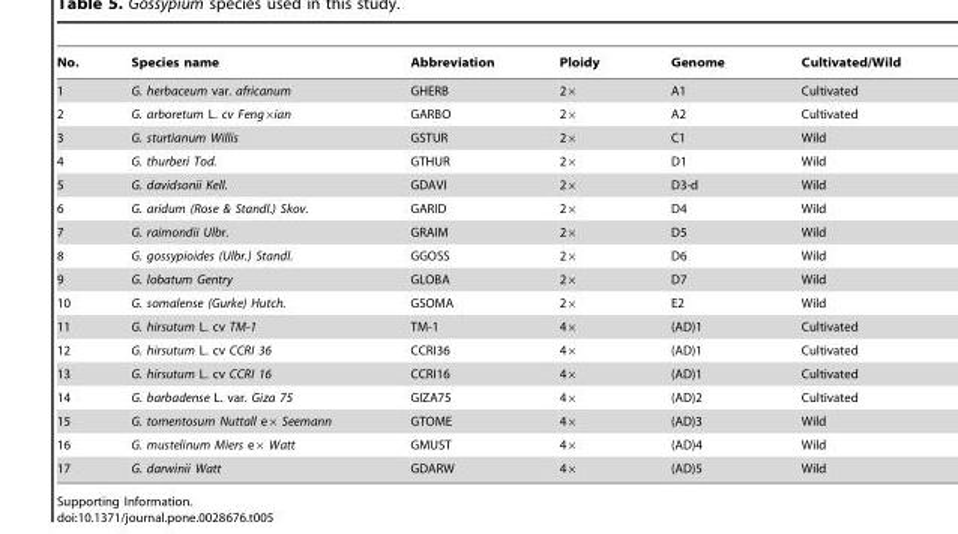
<table><thead><tr><td>No.</td><td>Species name</td><td>Abbreviation</td><td>Ploidy</td><td>Genome</td><td>Cultivated/Wild</td></tr></thead><tbody><tr><td>1</td><td>G. herbaceum var. africanum</td><td>GHERB</td><td>2×</td><td>A1</td><td>Cultivated</td></tr><tr><td>2</td><td>G. arboretum L. cv Feng×ian</td><td>GARBO</td><td>2×</td><td>A2</td><td>Cultivated</td></tr><tr><td>3</td><td>G. sturtianum Willis</td><td>GSTUR</td><td>2×</td><td>C1</td><td>Wild</td></tr><tr><td>4</td><td>G. thurberi Tod.</td><td>GTHUR</td><td>2×</td><td>D1</td><td>Wild</td></tr><tr><td>5</td><td>G. davidsonii Kell.</td><td>GDAVI</td><td>2×</td><td>D3-d</td><td>Wild</td></tr><tr><td>6</td><td>G. aridum (Rose &amp; Standl.) Skov.</td><td>GARID</td><td>2×</td><td>D4</td><td>Wild</td></tr><tr><td>7</td><td>G. raimondii Ulbr.</td><td>GRAIM</td><td>2×</td><td>D5</td><td>Wild</td></tr><tr><td>8</td><td>G. gossypioides (Ulbr.) Standl.</td><td>GGOSS</td><td>2×</td><td>D6</td><td>Wild</td></tr><tr><td>9</td><td>G. lobatum Gentry</td><td>GLOBA</td><td>2×</td><td>D7</td><td>Wild</td></tr><tr><td>10</td><td>G. somalense (Gurke) Hutch.</td><td>GSOMA</td><td>2×</td><td>E2</td><td>Wild</td></tr><tr><td>11</td><td>G. hirsutum L. cv TM-1</td><td>TM-1</td><td>4×</td><td>(AD)1</td><td>Cultivated</td></tr><tr><td>12</td><td>G. hirsutum L. cv CCRI 36</td><td>CCRI36</td><td>4×</td><td>(AD)1</td><td>Cultivated</td></tr><tr><td>13</td><td>G. hirsutum L. cv CCRI 16</td><td>CCRI16</td><td>4×</td><td>(AD)1</td><td>Cultivated</td></tr><tr><td>14</td><td>G. barbadense L. var. Giza 75</td><td>GIZA75</td><td>4×</td><td>(AD)2</td><td>Cultivated</td></tr><tr><td>15</td><td>G. tomentosum Nuttall e× Seemann</td><td>GTOME</td><td>4×</td><td>(AD)3</td><td>Wild</td></tr><tr><td>16</td><td>G. mustelinum Miers e× Watt</td><td>GMUST</td><td>4×</td><td>(AD)4</td><td>Wild</td></tr><tr><td>17</td><td>G. darwinii Watt</td><td>GDARW</td><td>4×</td><td>(AD)5</td><td>Wild</td></tr></tbody></table>